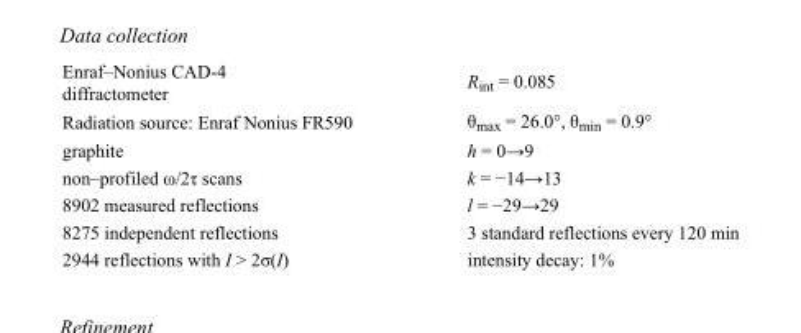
<table><tbody><tr><td>Enraf–Nonius CAD-4 diffractometer</td><td>R<sub>int</sub> = 0.085</td></tr><tr><td>Radiation source: Enraf Nonius FR590</td><td>θ<sub>max</sub> = 26.0°, θ<sub>min</sub> = 0.9°</td></tr><tr><td>graphite</td><td>h = 0→9</td></tr><tr><td>non–profiled ω/2τ scans</td><td>k = −14→13</td></tr><tr><td>8902 measured reflections</td><td>l = −29→29</td></tr><tr><td>8275 independent reflections</td><td>3 standard reflections every 120 min</td></tr><tr><td>2944 reflections with I &gt; 2σ(I)</td><td>intensity decay: 1%</td></tr></tbody></table>